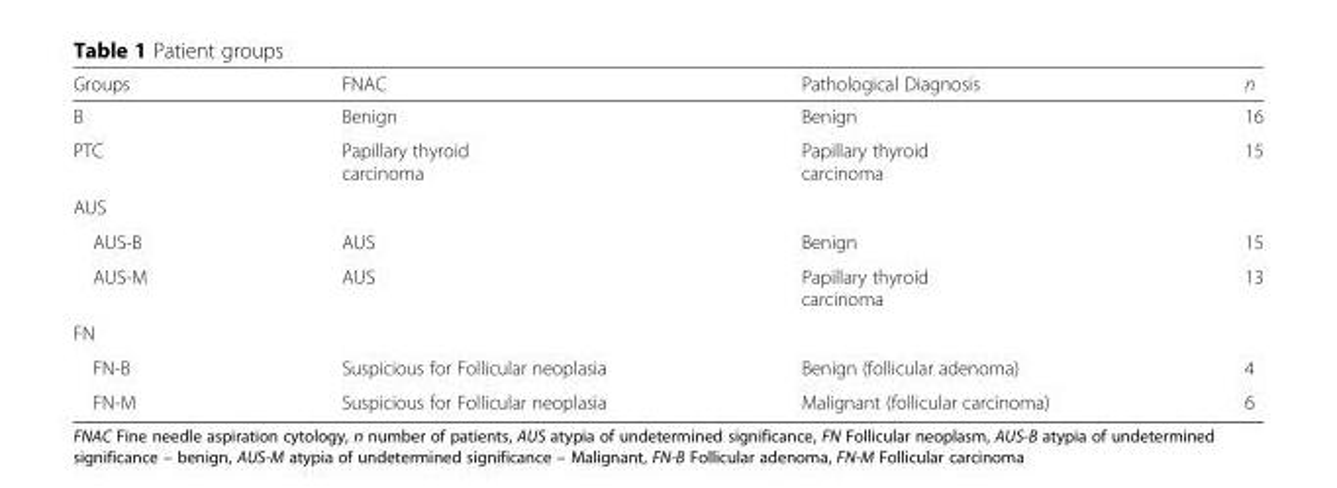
<table><thead><tr><td>Groups</td><td>FNAC</td><td>Pathological Diagnosis</td><td>n</td></tr></thead><tbody><tr><td>B</td><td>Benign</td><td>Benign</td><td>16</td></tr><tr><td>PTC</td><td>Papillary thyroid carcinoma</td><td>Papillary thyroid carcinoma</td><td>15</td></tr><tr><td colspan="4">AUS</td></tr><tr><td>AUS-B</td><td>AUS</td><td>Benign</td><td>15</td></tr><tr><td>AUS-M</td><td>AUS</td><td>Papillary thyroid carcinoma</td><td>13</td></tr><tr><td colspan="4">FN</td></tr><tr><td>FN-B</td><td>Suspicious for Follicular neoplasia</td><td>Benign (follicular adenoma)</td><td>4</td></tr><tr><td>FN-M</td><td>Suspicious for Follicular neoplasia</td><td>Malignant (follicular carcinoma)</td><td>6</td></tr></tbody></table>